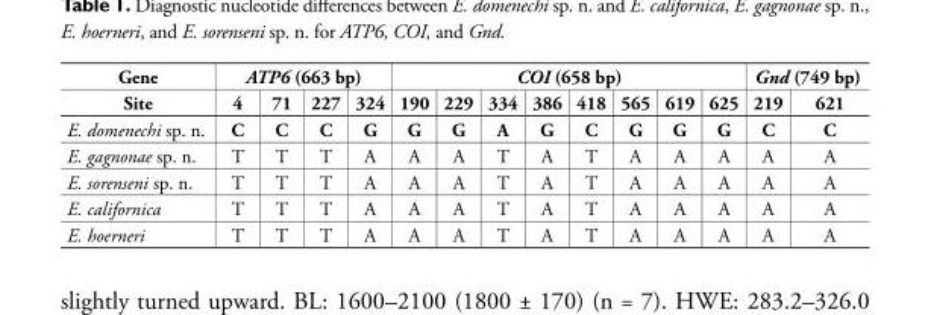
<table><thead><tr><td rowspan="2">Gene Site</td><td colspan="4">ATP6 (663 bp)</td><td colspan="8">COI (658 bp)</td><td colspan="2">Gnd (749 bp)</td></tr><tr><td>4</td><td>71</td><td>227</td><td>324</td><td>190</td><td>229</td><td>334</td><td>386</td><td>418</td><td>565</td><td>619</td><td>625</td><td>219</td><td>621</td></tr></thead><tbody><tr><td>E. domenechi sp. n.</td><td>C</td><td>C</td><td>C</td><td>G</td><td>G</td><td>G</td><td>A</td><td>G</td><td>C</td><td>G</td><td>G</td><td>G</td><td>C</td><td>C</td></tr><tr><td>E. gagnonae sp. n.</td><td>T</td><td>T</td><td>T</td><td>A</td><td>A</td><td>A</td><td>T</td><td>A</td><td>T</td><td>A</td><td>A</td><td>A</td><td>A</td><td>A</td></tr><tr><td>E. sorenseni sp. n.</td><td>T</td><td>T</td><td>T</td><td>A</td><td>A</td><td>A</td><td>T</td><td>A</td><td>T</td><td>A</td><td>A</td><td>A</td><td>A</td><td>A</td></tr><tr><td>E. californica</td><td>T</td><td>T</td><td>T</td><td>A</td><td>A</td><td>A</td><td>T</td><td>A</td><td>T</td><td>A</td><td>A</td><td>A</td><td>A</td><td>A</td></tr><tr><td>E. hoerneri</td><td>T</td><td>T</td><td>T</td><td>A</td><td>A</td><td>A</td><td>T</td><td>A</td><td>T</td><td>A</td><td>A</td><td>A</td><td>A</td><td>A</td></tr></tbody></table>